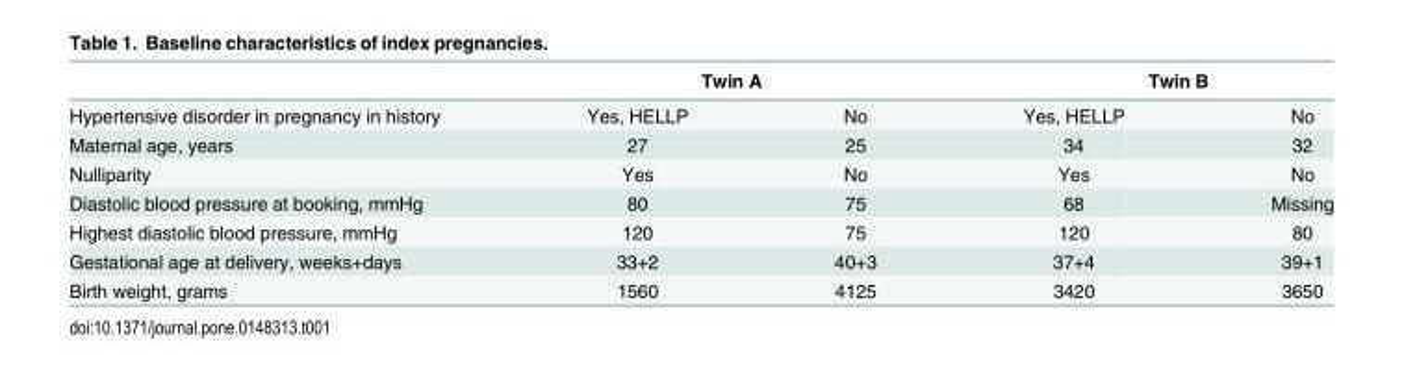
<table><thead><tr><td rowspan="2">Hypertensive disorder in pregnancy in history</td><td colspan="2">Twin A</td><td colspan="2">Twin B</td></tr><tr><td>Yes, HELLP</td><td>No</td><td>Yes, HELLP</td><td>No</td></tr></thead><tbody><tr><td>Maternal age, years</td><td>27</td><td>25</td><td>34</td><td>32</td></tr><tr><td>Nulliparity</td><td>Yes</td><td>No</td><td>Yes</td><td>No</td></tr><tr><td>Diastolic blood pressure at booking, mmHg</td><td>80</td><td>75</td><td>68</td><td>Missing</td></tr><tr><td>Highest diastolic blood pressure, mmHg</td><td>120</td><td>75</td><td>120</td><td>80</td></tr><tr><td>Gestational age at delivery, weeks+days</td><td>33+2</td><td>40+3</td><td>37+4</td><td>39+1</td></tr><tr><td>Birth weight, grams</td><td>1560</td><td>4125</td><td>3420</td><td>3650</td></tr></tbody></table>